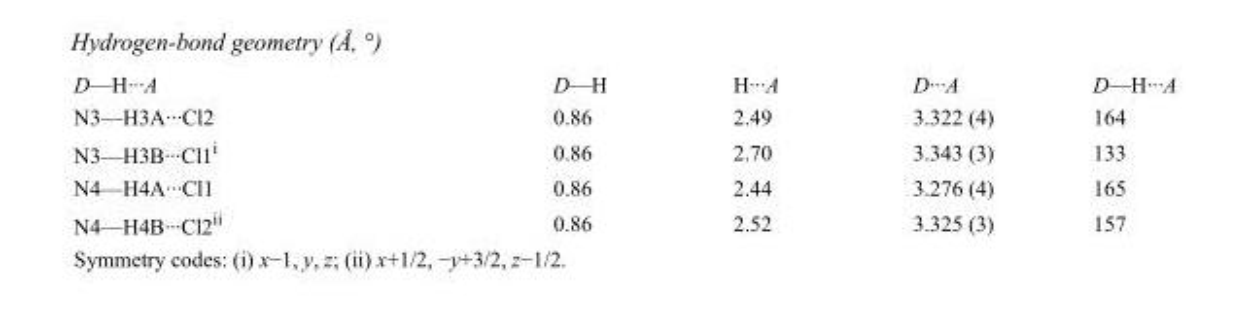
<table><tbody><tr><td>D—H···A</td><td>D—H</td><td>H···A</td><td>D···A</td><td>D—H···A</td></tr><tr><td>N3—H3A···Cl2</td><td>0.86</td><td>2.49</td><td>3.322 (4)</td><td>164</td></tr><tr><td>N3—H3B···Cl1<sup>i</sup></td><td>0.86</td><td>2.70</td><td>3.343 (3)</td><td>133</td></tr><tr><td>N4—H4A···Cl1</td><td>0.86</td><td>2.44</td><td>3.276 (4)</td><td>165</td></tr><tr><td>N4—H4B···Cl2<sup>ii</sup></td><td>0.86</td><td>2.52</td><td>3.325 (3)</td><td>157</td></tr></tbody></table>